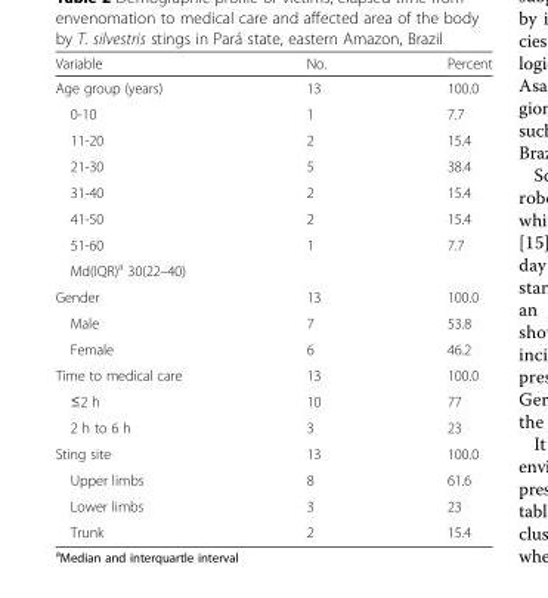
<table><thead><tr><td>Variable</td><td>No.</td><td>Percent</td></tr></thead><tbody><tr><td>Age group (years)</td><td>13</td><td>100.0</td></tr><tr><td>0-10</td><td>1</td><td>7.7</td></tr><tr><td>11-20</td><td>2</td><td>15.4</td></tr><tr><td>21-30</td><td>5</td><td>38.4</td></tr><tr><td>31-40</td><td>2</td><td>15.4</td></tr><tr><td>41-50</td><td>2</td><td>15.4</td></tr><tr><td>51-60</td><td>1</td><td>7.7</td></tr><tr><td colspan="3">Md(IQR)<sup>a</sup> 30(22–40)</td></tr><tr><td>Gender</td><td>13</td><td>100.0</td></tr><tr><td>Male</td><td>7</td><td>53.8</td></tr><tr><td>Female</td><td>6</td><td>46.2</td></tr><tr><td>Time to medical care</td><td>13</td><td>100.0</td></tr><tr><td>≤2 h</td><td>10</td><td>77</td></tr><tr><td>2 h to 6 h</td><td>3</td><td>23</td></tr><tr><td>Sting site</td><td>13</td><td>100.0</td></tr><tr><td>Upper limbs</td><td>8</td><td>61.6</td></tr><tr><td>Lower limbs</td><td>3</td><td>23</td></tr><tr><td>Trunk</td><td>2</td><td>15.4</td></tr></tbody></table>